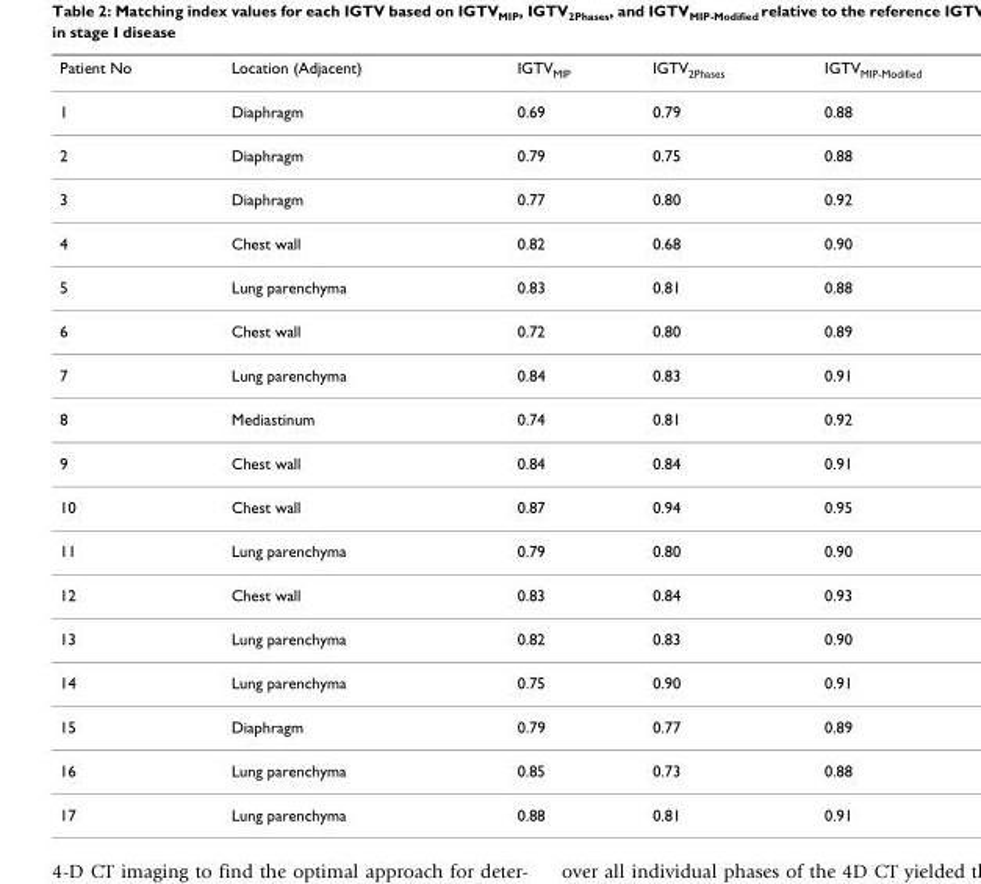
<table><thead><tr><td>Patient No</td><td>Location (Adjacent)</td><td>IGTV<sub>MIP</sub></td><td>IGTV<sub>2Phases</sub></td><td>IGTV<sub>MIP-Modified</sub></td></tr></thead><tbody><tr><td>1</td><td>Diaphragm</td><td>0.69</td><td>0.79</td><td>0.88</td></tr><tr><td>2</td><td>Diaphragm</td><td>0.79</td><td>0.75</td><td>0.88</td></tr><tr><td>3</td><td>Diaphragm</td><td>0.77</td><td>0.80</td><td>0.92</td></tr><tr><td>4</td><td>Chest wall</td><td>0.82</td><td>0.68</td><td>0.90</td></tr><tr><td>5</td><td>Lung parenchyma</td><td>0.83</td><td>0.81</td><td>0.88</td></tr><tr><td>6</td><td>Chest wall</td><td>0.72</td><td>0.80</td><td>0.89</td></tr><tr><td>7</td><td>Lung parenchyma</td><td>0.84</td><td>0.83</td><td>0.91</td></tr><tr><td>8</td><td>Mediastinum</td><td>0.74</td><td>0.81</td><td>0.92</td></tr><tr><td>9</td><td>Chest wall</td><td>0.84</td><td>0.84</td><td>0.91</td></tr><tr><td>10</td><td>Chest wall</td><td>0.87</td><td>0.94</td><td>0.95</td></tr><tr><td>11</td><td>Lung parenchyma</td><td>0.79</td><td>0.80</td><td>0.90</td></tr><tr><td>12</td><td>Chest wall</td><td>0.83</td><td>0.84</td><td>0.93</td></tr><tr><td>13</td><td>Lung parenchyma</td><td>0.82</td><td>0.83</td><td>0.90</td></tr><tr><td>14</td><td>Lung parenchyma</td><td>0.75</td><td>0.90</td><td>0.91</td></tr><tr><td>15</td><td>Diaphragm</td><td>0.79</td><td>0.77</td><td>0.89</td></tr><tr><td>16</td><td>Lung parenchyma</td><td>0.85</td><td>0.73</td><td>0.88</td></tr><tr><td>17</td><td>Lung parenchyma</td><td>0.88</td><td>0.81</td><td>0.91</td></tr></tbody></table>